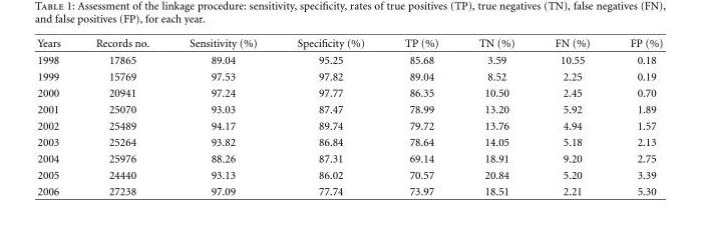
<table><thead><tr><td>Years</td><td>Records no.</td><td>Sensitivity (%)</td><td>Specificity (%)</td><td>TP (%)</td><td>TN (%)</td><td>FN (%)</td><td>FP (%)</td></tr></thead><tbody><tr><td>1998</td><td>17865</td><td>89.04</td><td>95.25</td><td>85.68</td><td>3.59</td><td>10.55</td><td>0.18</td></tr><tr><td>1999</td><td>15769</td><td>97.53</td><td>97.82</td><td>89.04</td><td>8.52</td><td>2.25</td><td>0.19</td></tr><tr><td>2000</td><td>20941</td><td>97.24</td><td>97.77</td><td>86.35</td><td>10.50</td><td>2.45</td><td>0.70</td></tr><tr><td>2001</td><td>25070</td><td>93.03</td><td>87.47</td><td>78.99</td><td>13.20</td><td>5.92</td><td>1.89</td></tr><tr><td>2002</td><td>25489</td><td>94.17</td><td>89.74</td><td>79.72</td><td>13.76</td><td>4.94</td><td>1.57</td></tr><tr><td>2003</td><td>25264</td><td>93.82</td><td>86.84</td><td>78.64</td><td>14.05</td><td>5.18</td><td>2.13</td></tr><tr><td>2004</td><td>25976</td><td>88.26</td><td>87.31</td><td>69.14</td><td>18.91</td><td>9.20</td><td>2.75</td></tr><tr><td>2005</td><td>24440</td><td>93.13</td><td>86.02</td><td>70.57</td><td>20.84</td><td>5.20</td><td>3.39</td></tr><tr><td>2006</td><td>27238</td><td>97.09</td><td>77.74</td><td>73.97</td><td>18.51</td><td>2.21</td><td>5.30</td></tr></tbody></table>